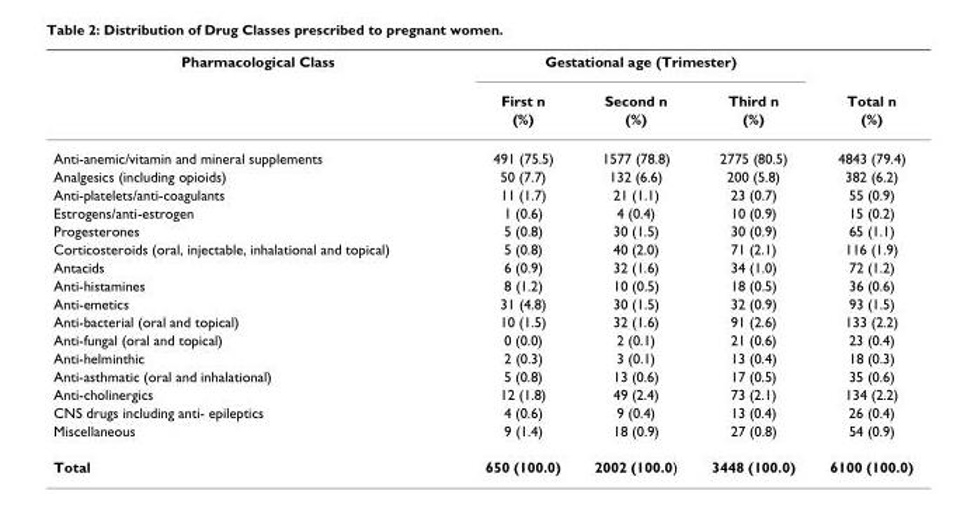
<table><thead><tr><td rowspan="3">Pharmacological Class</td><td colspan="3">Gestational age (Trimester)</td><td rowspan="3">Total n (%)</td></tr><tr><td rowspan="2">First n (%)</td><td rowspan="2">Second n (%)</td><td rowspan="2">Third n (%)</td></tr><tr></tr></thead><tbody><tr><td>Anti-anemic/vitamin and mineral supplements</td><td>491 (75.5)</td><td>1577 (78.8)</td><td>2775 (80.5)</td><td>4843 (79.4)</td></tr><tr><td>Analgesics (including opioids)</td><td>50 (7.7)</td><td>132 (6.6)</td><td>200 (5.8)</td><td>382 (6.2)</td></tr><tr><td>Anti-platelets/anti-coagulants</td><td>11 (1.7)</td><td>21 (1.1)</td><td>23 (0.7)</td><td>55 (0.9)</td></tr><tr><td>Estrogens/anti-estrogen</td><td>1 (0.6)</td><td>4 (0.4)</td><td>10 (0.9)</td><td>15 (0.2)</td></tr><tr><td>Progesterones</td><td>5 (0.8)</td><td>30 (1.5)</td><td>30 (0.9)</td><td>65 (1.1)</td></tr><tr><td>Corticosteroids (oral, injectable, inhalational and topical)</td><td>5 (0.8)</td><td>40 (2.0)</td><td>71 (2.1)</td><td>116 (1.9)</td></tr><tr><td>Antacids</td><td>6 (0.9)</td><td>32 (1.6)</td><td>34 (1.0)</td><td>72 (1.2)</td></tr><tr><td>Anti-histamines</td><td>8 (1.2)</td><td>10 (0.5)</td><td>18 (0.5)</td><td>36 (0.6)</td></tr><tr><td>Anti-emetics</td><td>31 (4.8)</td><td>30 (1.5)</td><td>32 (0.9)</td><td>93 (1.5)</td></tr><tr><td>Anti-bacterial (oral and topical)</td><td>10 (1.5)</td><td>32 (1.6)</td><td>91 (2.6)</td><td>133 (2.2)</td></tr><tr><td>Anti-fungal (oral and topical)</td><td>0 (0.0)</td><td>2 (0.1)</td><td>21 (0.6)</td><td>23 (0.4)</td></tr><tr><td>Anti-helminthic</td><td>2 (0.3)</td><td>3 (0.1)</td><td>13 (0.4)</td><td>18 (0.3)</td></tr><tr><td>Anti-asthmatic (oral and inhalational)</td><td>5 (0.8)</td><td>13 (0.6)</td><td>17 (0.5)</td><td>35 (0.6)</td></tr><tr><td>Anti-cholinergics</td><td>12 (1.8)</td><td>49 (2.4)</td><td>73 (2.1)</td><td>134 (2.2)</td></tr><tr><td>CNS drugs including anti- epileptics</td><td>4 (0.6)</td><td>9 (0.4)</td><td>13 (0.4)</td><td>26 (0.4)</td></tr><tr><td>Miscellaneous</td><td>9 (1.4)</td><td>18 (0.9)</td><td>27 (0.8)</td><td>54 (0.9)</td></tr><tr><td>Total</td><td>650 (100.0)</td><td>2002 (100.0)</td><td>3448 (100.0)</td><td>6100 (100.0)</td></tr></tbody></table>